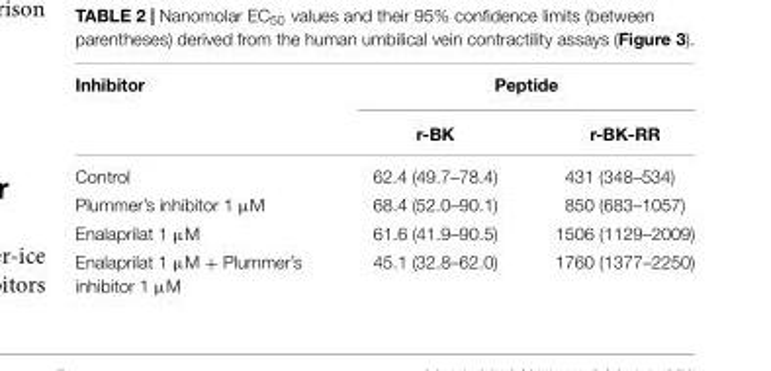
<table><thead><tr><td rowspan="2">Inhibitor</td><td colspan="2">Peptide</td></tr><tr><td>r-BK</td><td>r-BK-RR</td></tr></thead><tbody><tr><td>Control</td><td>62.4 (49.7–78.4)</td><td>431 (348–534)</td></tr><tr><td>Plummer’s inhibitor 1 µM</td><td>68.4 (52.0–90.1)</td><td>850 (683–1057)</td></tr><tr><td>Enalaprilat 1 µM</td><td>61.6 (41.9–90.5)</td><td>1506 (1129–2009)</td></tr><tr><td>Enalaprilat 1 µM + Plummer’s inhibitor 1 µM</td><td>45.1 (32.8–62.0)</td><td>1760 (1377–2250)</td></tr></tbody></table>